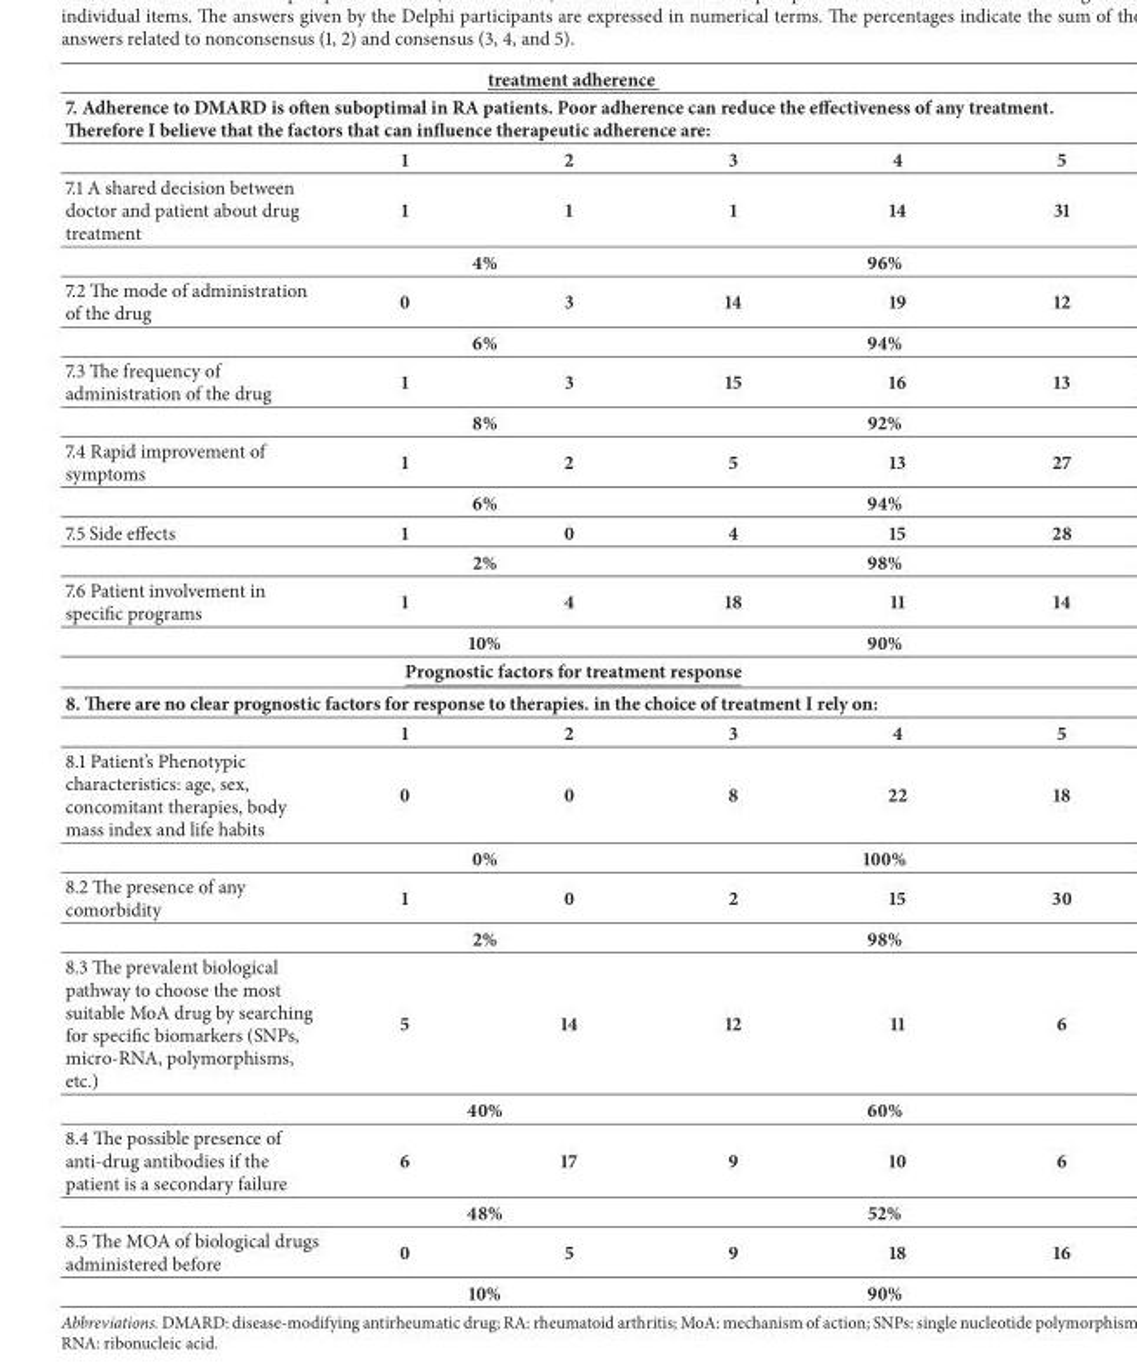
<table><thead><tr><td rowspan="2" colspan="6">treatment adherence 7. Adherence to DMARD is ofen suboptimal in RA patients. Poor adherence can reduce the effectiveness of any treatment. Terefore I believe that the factors that can influence therapeutic adherence are:</td></tr><tr></tr><tr><td></td><td>1</td><td>2</td><td>3</td><td>4</td><td>5</td></tr></thead><tbody><tr><td rowspan="2">7.1 A shared decision between doctor and patient about drug treatment</td><td>1</td><td>1</td><td>1</td><td>14</td><td>31</td></tr><tr><td colspan="2">4%</td><td colspan="3">96%</td></tr><tr><td rowspan="2">7.2 The mode of administration of the drug</td><td>0</td><td>3</td><td>14</td><td>19</td><td>12</td></tr><tr><td colspan="2">6%</td><td colspan="3">94%</td></tr><tr><td rowspan="2">7.3 The frequency of administration of the drug</td><td>1</td><td>3</td><td>15</td><td>16</td><td>13</td></tr><tr><td colspan="2">8%</td><td colspan="3">92%</td></tr><tr><td rowspan="2">7.4 Rapid improvement of symptoms</td><td>1</td><td>2</td><td>5</td><td>13</td><td>27</td></tr><tr><td colspan="2">6%</td><td colspan="3">94%</td></tr><tr><td rowspan="2">7.5 Side effects</td><td>1</td><td>0</td><td>4</td><td>15</td><td>28</td></tr><tr><td colspan="2">2%</td><td colspan="3">98%</td></tr><tr><td rowspan="2">7.6 Patient involvement in specific programs</td><td>1</td><td>4</td><td>18</td><td>11</td><td>14</td></tr><tr><td colspan="2">10%</td><td colspan="3">90%</td></tr><tr><td colspan="6">Prognostic factors for treatment response</td></tr><tr><td colspan="6">8. Tere are no clear prognostic factors for response to therapies. in the choice of treatment I rely on:</td></tr><tr><td></td><td>1</td><td>2</td><td>3</td><td>4</td><td>5</td></tr><tr><td rowspan="2">8.1 Patient’s Phenotypic characteristics: age, sex, concomitant therapies, body mass index and life habits</td><td>0</td><td>0</td><td>8</td><td>22</td><td>18</td></tr><tr><td colspan="2">0%</td><td colspan="3">100%</td></tr><tr><td rowspan="2">8.2 The presence of any comorbidity</td><td>1</td><td>0</td><td>2</td><td>15</td><td>30</td></tr><tr><td colspan="2">2%</td><td colspan="3">98%</td></tr><tr><td rowspan="2">8.3 The prevalent biological pathway to choose the most suitable MoA drug by searching for specific biomarkers (SNPs, micro-RNA, polymorphisms, etc.)</td><td>5</td><td>14</td><td>12</td><td>11</td><td>6</td></tr><tr><td colspan="2">40%</td><td colspan="3">60%</td></tr><tr><td rowspan="2">8.4 The possible presence of anti-drug antibodies if the patient is a secondary failure</td><td>6</td><td>17</td><td>9</td><td>10</td><td>6</td></tr><tr><td colspan="2">48%</td><td colspan="3">52%</td></tr><tr><td rowspan="2">8.5 The MOA of biological drugs administered before</td><td>0</td><td>5</td><td>9</td><td>18</td><td>16</td></tr><tr><td colspan="2">10%</td><td colspan="3">90%</td></tr></tbody></table>